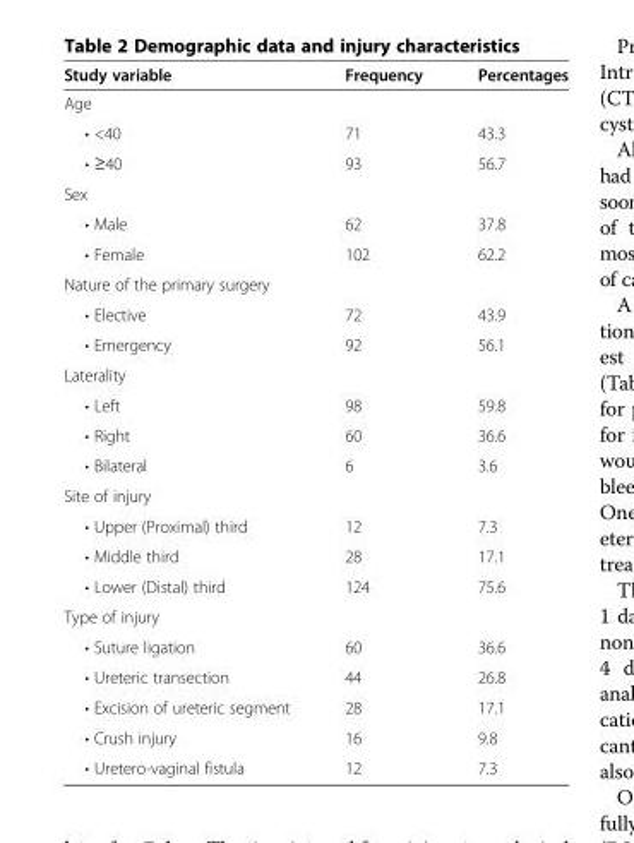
<table><thead><tr><td>Study variable</td><td>Frequency</td><td>Percentages</td></tr></thead><tbody><tr><td colspan="3">Age</td></tr><tr><td>• &lt;40</td><td>71</td><td>43.3</td></tr><tr><td>• ≥40</td><td>93</td><td>56.7</td></tr><tr><td colspan="3">Sex</td></tr><tr><td>• Male</td><td>62</td><td>37.8</td></tr><tr><td>• Female</td><td>102</td><td>62.2</td></tr><tr><td colspan="3">Nature of the primary surgery</td></tr><tr><td>• Elective</td><td>72</td><td>43.9</td></tr><tr><td>• Emergency</td><td>92</td><td>56.1</td></tr><tr><td colspan="3">Laterality</td></tr><tr><td>• Left</td><td>98</td><td>59.8</td></tr><tr><td>• Right</td><td>60</td><td>36.6</td></tr><tr><td>• Bilateral</td><td>6</td><td>3.6</td></tr><tr><td colspan="3">Site of injury</td></tr><tr><td>• Upper (Proximal) third</td><td>12</td><td>7.3</td></tr><tr><td>• Middle third</td><td>28</td><td>17.1</td></tr><tr><td>• Lower (Distal) third</td><td>124</td><td>75.6</td></tr><tr><td colspan="3">Type of injury</td></tr><tr><td>• Suture ligation</td><td>60</td><td>36.6</td></tr><tr><td>• Ureteric transection</td><td>44</td><td>26.8</td></tr><tr><td>• Excision of ureteric segment</td><td>28</td><td>17.1</td></tr><tr><td>• Crush injury</td><td>16</td><td>9.8</td></tr><tr><td>• Uretero-vaginal fistula</td><td>12</td><td>7.3</td></tr></tbody></table>